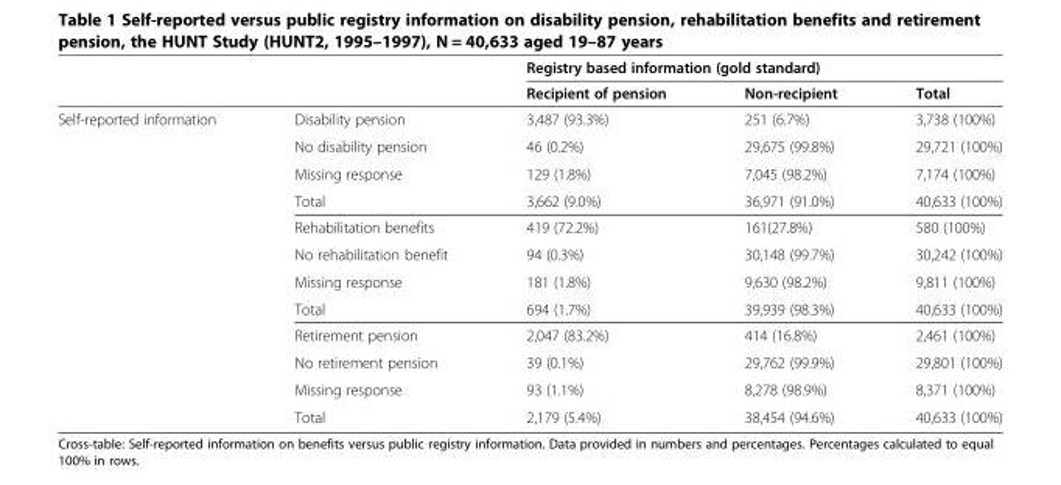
<table><thead><tr><td rowspan="2"></td><td rowspan="2"></td><td colspan="3">Registry based information (gold standard)</td></tr><tr><td>Recipient of pension</td><td>Non-recipient</td><td>Total</td></tr></thead><tbody><tr><td rowspan="12">Self-reported information</td><td>Disability pension</td><td>3,487 (93.3%)</td><td>251 (6.7%)</td><td>3,738 (100%)</td></tr><tr><td>No disability pension</td><td>46 (0.2%)</td><td>29,675 (99.8%)</td><td>29,721 (100%)</td></tr><tr><td>Missing response</td><td>129 (1.8%)</td><td>7,045 (98.2%)</td><td>7,174 (100%)</td></tr><tr><td>Total</td><td>3,662 (9.0%)</td><td>36,971 (91.0%)</td><td>40,633 (100%)</td></tr><tr><td>Rehabilitation benefits</td><td>419 (72.2%)</td><td>161(27.8%)</td><td>580 (100%)</td></tr><tr><td>No rehabilitation benefit</td><td>94 (0.3%)</td><td>30,148 (99.7%)</td><td>30,242 (100%)</td></tr><tr><td>Missing response</td><td>181 (1.8%)</td><td>9,630 (98.2%)</td><td>9,811 (100%)</td></tr><tr><td>Total</td><td>694 (1.7%)</td><td>39,939 (98.3%)</td><td>40,633 (100%)</td></tr><tr><td>Retirement pension</td><td>2,047 (83.2%)</td><td>414 (16.8%)</td><td>2,461 (100%)</td></tr><tr><td>No retirement pension</td><td>39 (0.1%)</td><td>29,762 (99.9%)</td><td>29,801 (100%)</td></tr><tr><td>Missing response</td><td>93 (1.1%)</td><td>8,278 (98.9%)</td><td>8,371 (100%)</td></tr><tr><td>Total</td><td>2,179 (5.4%)</td><td>38,454 (94.6%)</td><td>40,633 (100%)</td></tr></tbody></table>